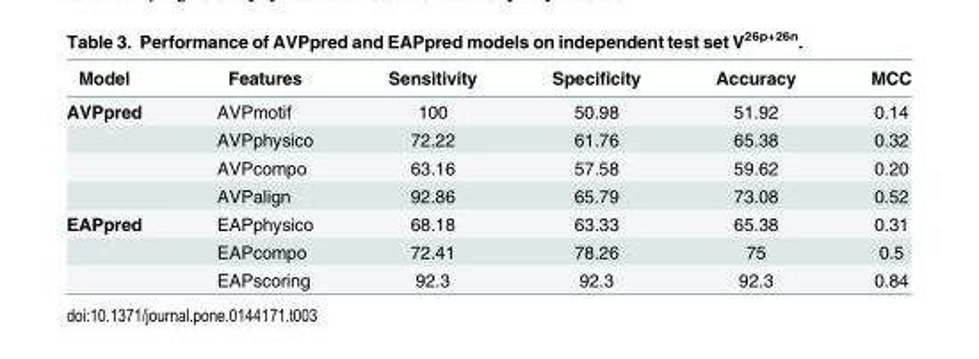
<table><thead><tr><td>Model</td><td>Features</td><td>Sensitivity</td><td>Specificity</td><td>Accuracy</td><td>MCC</td></tr></thead><tbody><tr><td rowspan="4">AVPpred</td><td>AVPmotif</td><td>100</td><td>50.98</td><td>51.92</td><td>0.14</td></tr><tr><td>AVPphysico</td><td>72.22</td><td>61.76</td><td>65.38</td><td>0.32</td></tr><tr><td>AVPcompo</td><td>63.16</td><td>57.58</td><td>59.62</td><td>0.20</td></tr><tr><td>AVPalign</td><td>92.86</td><td>65.79</td><td>73.08</td><td>0.52</td></tr><tr><td rowspan="3">EAPpred</td><td>EAPphysico</td><td>68.18</td><td>63.33</td><td>65.38</td><td>0.31</td></tr><tr><td>EAPcompo</td><td>72.41</td><td>78.26</td><td>75</td><td>0.5</td></tr><tr><td>EAPscoring</td><td>92.3</td><td>92.3</td><td>92.3</td><td>0.84</td></tr></tbody></table>